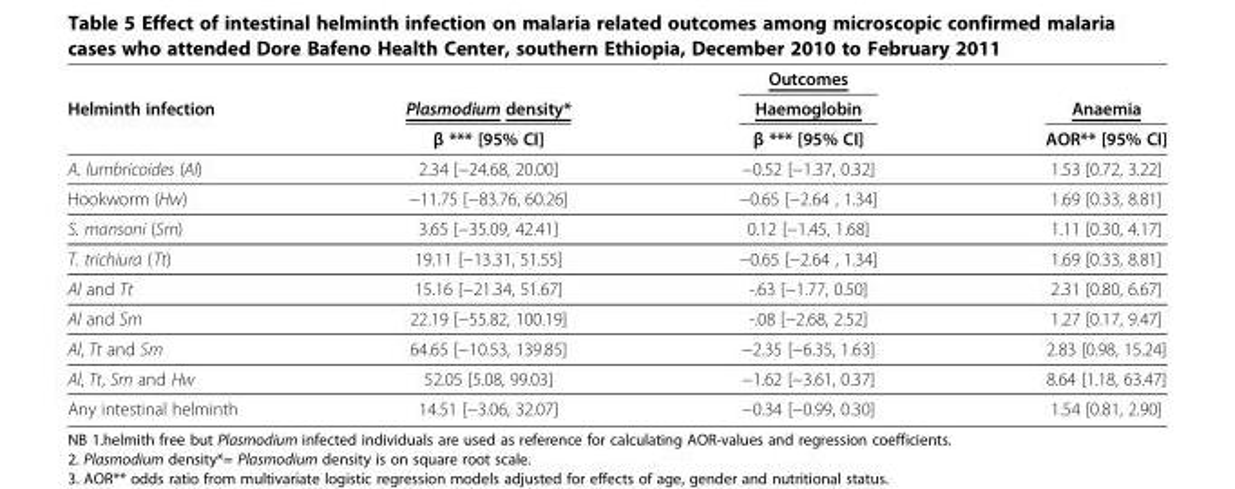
<table><thead><tr><td rowspan="3">Helminth infection</td><td rowspan="3">Plasmodium density* β *** [95% CI]</td><td rowspan="3">Outcomes Haemoglobin β *** [95% CI]</td><td rowspan="3">Anaemia AOR** [95% CI]</td></tr><tr></tr><tr></tr></thead><tbody><tr><td>A. lumbricoides (Al)</td><td>2.34 [−24.68, 20.00]</td><td>−0.52 [−1.37, 0.32]</td><td>1.53 [0.72, 3.22]</td></tr><tr><td>Hookworm (Hw)</td><td>−11.75 [−83.76, 60.26]</td><td>−0.65 [−2.64 , 1.34]</td><td>1.69 [0.33, 8.81]</td></tr><tr><td>S. mansoni (Sm)</td><td>3.65 [−35.09, 42.41]</td><td>0.12 [−1.45, 1.68]</td><td>1.11 [0.30, 4.17]</td></tr><tr><td>T. trichiura (Tt)</td><td>19.11 [−13.31, 51.55]</td><td>−0.65 [−2.64 , 1.34]</td><td>1.69 [0.33, 8.81]</td></tr><tr><td>Al and Tt</td><td>15.16 [−21.34, 51.67]</td><td>-.63 [−1.77, 0.50]</td><td>2.31 [0.80, 6.67]</td></tr><tr><td>Al and Sm</td><td>22.19 [−55.82, 100.19]</td><td>-.08 [−2.68, 2.52]</td><td>1.27 [0.17, 9.47]</td></tr><tr><td>Al, Tt and Sm</td><td>64.65 [−10.53, 139.85]</td><td>−2.35 [−6.35, 1.63]</td><td>2.83 [0.98, 15.24]</td></tr><tr><td>Al, Tt, Sm and Hw</td><td>52.05 [5.08, 99.03]</td><td>−1.62 [−3.61, 0.37]</td><td>8.64 [1.18, 63.47]</td></tr><tr><td>Any intestinal helminth</td><td>14.51 [−3.06, 32.07]</td><td>−0.34 [−0.99, 0.30]</td><td>1.54 [0.81, 2.90]</td></tr></tbody></table>